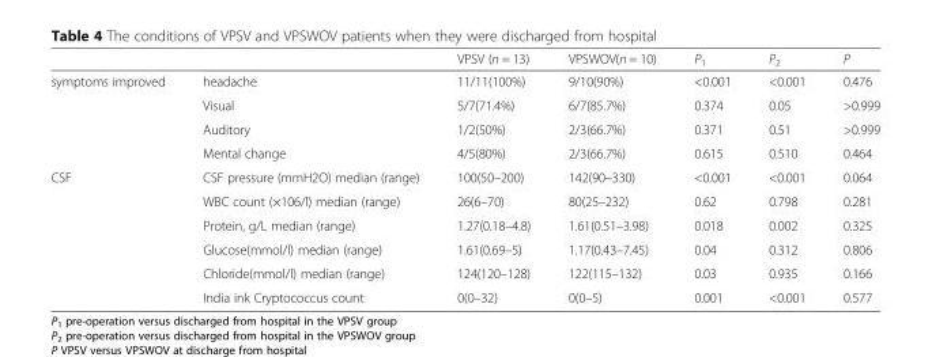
<table><thead><tr><td></td><td></td><td>VPSV (n = 13)</td><td>VPSWOV(n = 10)</td><td>P<sub>1</sub></td><td>P<sub>2</sub></td><td>P</td></tr></thead><tbody><tr><td rowspan="4">symptoms improved</td><td>headache</td><td>11/11(100%)</td><td>9/10(90%)</td><td>&lt;0.001</td><td>&lt;0.001</td><td>0.476</td></tr><tr><td>Visual</td><td>5/7(71.4%)</td><td>6/7(85.7%)</td><td>0.374</td><td>0.05</td><td>&gt;0.999</td></tr><tr><td>Auditory</td><td>1/2(50%)</td><td>2/3(66.7%)</td><td>0.371</td><td>0.51</td><td>&gt;0.999</td></tr><tr><td>Mental change</td><td>4/5(80%)</td><td>2/3(66.7%)</td><td>0.615</td><td>0.510</td><td>0.464</td></tr><tr><td rowspan="6">CSF</td><td>CSF pressure (mmH2O) median (range)</td><td>100(50–200)</td><td>142(90–330)</td><td>&lt;0.001</td><td>&lt;0.001</td><td>0.064</td></tr><tr><td>WBC count (×106/l) median (range)</td><td>26(6–70)</td><td>80(25–232)</td><td>0.62</td><td>0.798</td><td>0.281</td></tr><tr><td>Protein, g/L median (range)</td><td>1.27(0.18–4.8)</td><td>1.61(0.51–3.98)</td><td>0.018</td><td>0.002</td><td>0.325</td></tr><tr><td>Glucose(mmol/l) median (range)</td><td>1.61(0.69–5)</td><td>1.17(0.43–7.45)</td><td>0.04</td><td>0.312</td><td>0.806</td></tr><tr><td>Chloride(mmol/l) median (range)</td><td>124(120–128)</td><td>122(115–132)</td><td>0.03</td><td>0.935</td><td>0.166</td></tr><tr><td>India ink Cryptococcus count</td><td>0(0–32)</td><td>0(0–5)</td><td>0.001</td><td>&lt;0.001</td><td>0.577</td></tr></tbody></table>